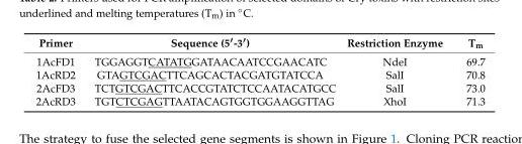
<table><thead><tr><td>Primer</td><td>Sequence (5′-3′)</td><td>Restriction Enzyme</td><td>T<sub>m</sub></td></tr></thead><tbody><tr><td>1AcFD1</td><td>TGGAGGTCATATGGATAACAATCCGAACATC</td><td>NdeI</td><td>69.7</td></tr><tr><td>1AcRD2</td><td>GTAGTCGACTTCAGCACTACGATGTATCCA</td><td>SalI</td><td>70.8</td></tr><tr><td>2AcFD3</td><td>TCTGTCGACTTCACCGTATCTCCAATACATGCC</td><td>SalI</td><td>73.0</td></tr><tr><td>2AcRD3</td><td>TGTCTCGAGTTAATACAGTGGTGGAAGGTTAG</td><td>XhoI</td><td>71.3</td></tr></tbody></table>